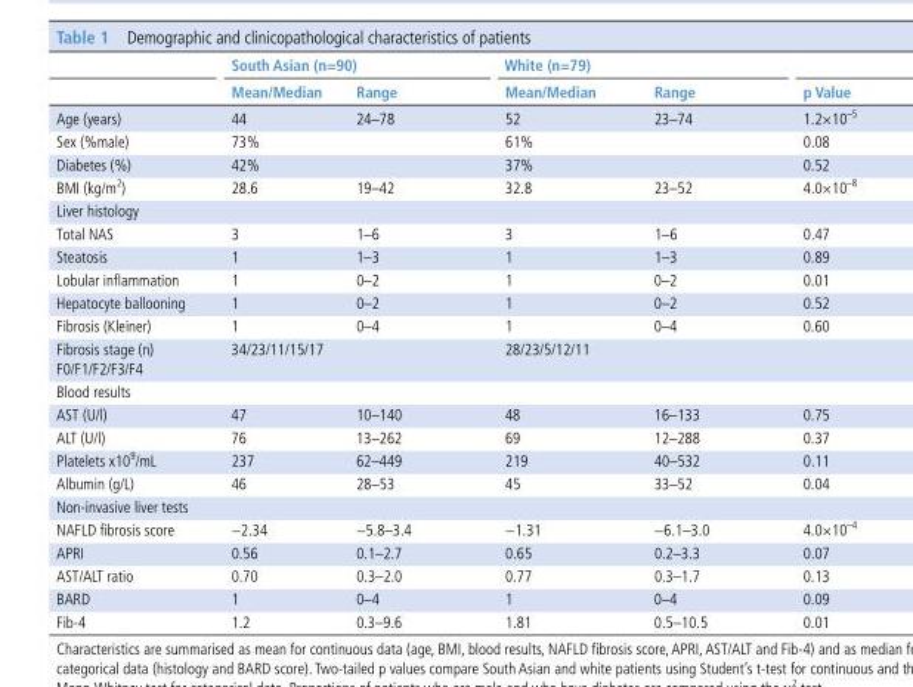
<table><thead><tr><td rowspan="2"></td><td colspan="2">south asian (n=90)</td><td colspan="2">White (n=79)</td><td rowspan="2">p Value</td></tr><tr><td>Mean/Median</td><td>Range</td><td>Mean/Median</td><td>Range</td></tr></thead><tbody><tr><td>Age (years)</td><td>44</td><td>24–78</td><td>52</td><td>23–74</td><td>1.2×10<sup>–5</sup></td></tr><tr><td>Sex (%male)</td><td>73%</td><td></td><td>61%</td><td></td><td>0.08</td></tr><tr><td>Diabetes (%)</td><td>42%</td><td></td><td>37%</td><td></td><td>0.52</td></tr><tr><td>BMI (kg/m<sup>2</sup>)</td><td>28.6</td><td>19–42</td><td>32.8</td><td>23–52</td><td>4.0×10<sup>–8</sup></td></tr><tr><td colspan="6">Liver histology</td></tr><tr><td>Total NAS</td><td>3</td><td>1–6</td><td>3</td><td>1–6</td><td>0.47</td></tr><tr><td>Steatosis</td><td>1</td><td>1–3</td><td>1</td><td>1–3</td><td>0.89</td></tr><tr><td>Lobular inflammation</td><td>1</td><td>0–2</td><td>1</td><td>0–2</td><td>0.01</td></tr><tr><td>Hepatocyte ballooning</td><td>1</td><td>0–2</td><td>1</td><td>0–2</td><td>0.52</td></tr><tr><td>Fibrosis (Kleiner)</td><td>1</td><td>0–4</td><td>1</td><td>0–4</td><td>0.60</td></tr><tr><td>Fibrosis stage (n) F0/F1/F2/F3/F4</td><td colspan="2">34/23/11/15/17</td><td colspan="2">28/23/5/12/11</td><td></td></tr><tr><td colspan="6">Blood results</td></tr><tr><td>AST (U/l)</td><td>47</td><td>10–140</td><td>48</td><td>16–133</td><td>0.75</td></tr><tr><td>ALT (U/l)</td><td>76</td><td>13–262</td><td>69</td><td>12–288</td><td>0.37</td></tr><tr><td>Platelets x10<sup>9</sup>/mL</td><td>237</td><td>62–449</td><td>219</td><td>40–532</td><td>0.11</td></tr><tr><td>Albumin (g/L)</td><td>46</td><td>28–53</td><td>45</td><td>33–52</td><td>0.04</td></tr><tr><td colspan="6">Non-invasive liver tests</td></tr><tr><td>NAFLD fibrosis score</td><td>−2.34</td><td>−5.8–3.4</td><td>−1.31</td><td>−6.1–3.0</td><td>4.0×10<sup>–4</sup></td></tr><tr><td>APRI</td><td>0.56</td><td>0.1–2.7</td><td>0.65</td><td>0.2–3.3</td><td>0.07</td></tr><tr><td>AST/ALT ratio</td><td>0.70</td><td>0.3–2.0</td><td>0.77</td><td>0.3–1.7</td><td>0.13</td></tr><tr><td>BARD</td><td>1</td><td>0–4</td><td>1</td><td>0–4</td><td>0.09</td></tr><tr><td>Fib-4</td><td>1.2</td><td>0.3–9.6</td><td>1.81</td><td>0.5–10.5</td><td>0.01</td></tr></tbody></table>